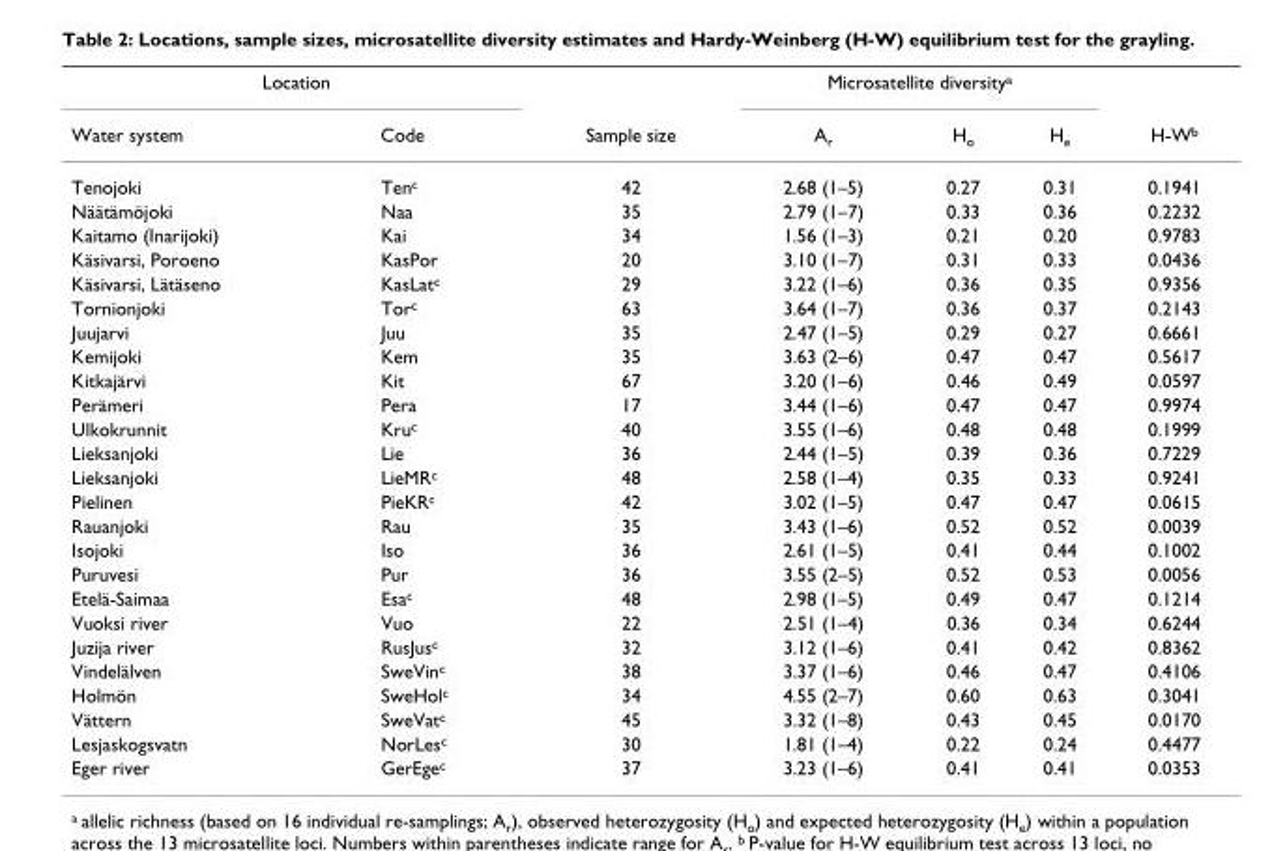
<table><thead><tr><td colspan="2">Location</td><td rowspan="2">Sample size</td><td colspan="3">Microsatellite diversity<sup>a</sup></td><td rowspan="2">H-W<sup>b</sup></td></tr><tr><td>Water system</td><td>Code</td><td>A<sub>r</sub></td><td>H<sub>o</sub></td><td>H<sub>e</sub></td></tr></thead><tbody><tr><td>Tenojoki</td><td>Ten<sup>c</sup></td><td>42</td><td>2.68 (1–5)</td><td>0.27</td><td>0.31</td><td>0.1941</td></tr><tr><td>Näätämöjoki</td><td>Naa</td><td>35</td><td>2.79 (1–7)</td><td>0.33</td><td>0.36</td><td>0.2232</td></tr><tr><td>Kaitamo (Inarijoki)</td><td>Kai</td><td>34</td><td>1.56 (1–3)</td><td>0.21</td><td>0.20</td><td>0.9783</td></tr><tr><td>Käsivarsi, Poroeno</td><td>KasPor</td><td>20</td><td>3.10 (1–7)</td><td>0.31</td><td>0.33</td><td>0.0436</td></tr><tr><td>Käsivarsi, Lätäseno</td><td>KasLat<sup>c</sup></td><td>29</td><td>3.22 (1–6)</td><td>0.36</td><td>0.35</td><td>0.9356</td></tr><tr><td>Tornionjoki</td><td>Tor<sup>c</sup></td><td>63</td><td>3.64 (1–7)</td><td>0.36</td><td>0.37</td><td>0.2143</td></tr><tr><td>Juujarvi</td><td>Juu</td><td>35</td><td>2.47 (1–5)</td><td>0.29</td><td>0.27</td><td>0.6661</td></tr><tr><td>Kemijoki</td><td>Kem</td><td>35</td><td>3.63 (2–6)</td><td>0.47</td><td>0.47</td><td>0.5617</td></tr><tr><td>Kitkajärvi</td><td>Kit</td><td>67</td><td>3.20 (1–6)</td><td>0.46</td><td>0.49</td><td>0.0597</td></tr><tr><td>Perämeri</td><td>Pera</td><td>17</td><td>3.44 (1–6)</td><td>0.47</td><td>0.47</td><td>0.9974</td></tr><tr><td>Ulkokrunnit</td><td>Kru<sup>c</sup></td><td>40</td><td>3.55 (1–6)</td><td>0.48</td><td>0.48</td><td>0.1999</td></tr><tr><td>Lieksanjoki</td><td>Lie</td><td>36</td><td>2.44 (1–5)</td><td>0.39</td><td>0.36</td><td>0.7229</td></tr><tr><td>Lieksanjoki</td><td>LieMR<sup>c</sup></td><td>48</td><td>2.58 (1–4)</td><td>0.35</td><td>0.33</td><td>0.9241</td></tr><tr><td>Pielinen</td><td>PieKR<sup>c</sup></td><td>42</td><td>3.02 (1–5)</td><td>0.47</td><td>0.47</td><td>0.0615</td></tr><tr><td>Rauanjoki</td><td>Rau</td><td>35</td><td>3.43 (1–6)</td><td>0.52</td><td>0.52</td><td>0.0039</td></tr><tr><td>Isojoki</td><td>Iso</td><td>36</td><td>2.61 (1–5)</td><td>0.41</td><td>0.44</td><td>0.1002</td></tr><tr><td>Puruvesi</td><td>Pur</td><td>36</td><td>3.55 (2–5)</td><td>0.52</td><td>0.53</td><td>0.0056</td></tr><tr><td>Etelä-Saimaa</td><td>Esa<sup>c</sup></td><td>48</td><td>2.98 (1–5)</td><td>0.49</td><td>0.47</td><td>0.1214</td></tr><tr><td>Vuoksi river</td><td>Vuo</td><td>22</td><td>2.51 (1–4)</td><td>0.36</td><td>0.34</td><td>0.6244</td></tr><tr><td>Juzija river</td><td>RusJus<sup>c</sup></td><td>32</td><td>3.12 (1–6)</td><td>0.41</td><td>0.42</td><td>0.8362</td></tr><tr><td>Vindelälven</td><td>SweVin<sup>c</sup></td><td>38</td><td>3.37 (1–6)</td><td>0.46</td><td>0.47</td><td>0.4106</td></tr><tr><td>Holmön</td><td>SweHol<sup>c</sup></td><td>34</td><td>4.55 (2–7)</td><td>0.60</td><td>0.63</td><td>0.3041</td></tr><tr><td>Vättern</td><td>SweVat<sup>c</sup></td><td>45</td><td>3.32 (1–8)</td><td>0.43</td><td>0.45</td><td>0.0170</td></tr><tr><td>Lesjaskogsvatn</td><td>NorLes<sup>c</sup></td><td>30</td><td>1.81 (1–4)</td><td>0.22</td><td>0.24</td><td>0.4477</td></tr><tr><td>Eger river</td><td>GerEge<sup>c</sup></td><td>37</td><td>3.23 (1–6)</td><td>0.41</td><td>0.41</td><td>0.0353</td></tr></tbody></table>